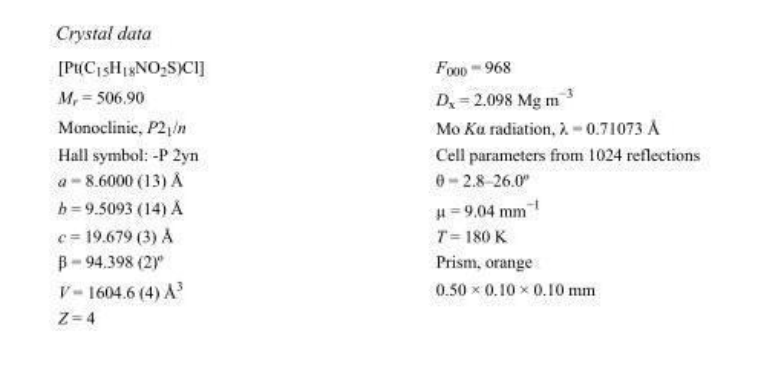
<table><tbody><tr><td>[Pt(C<sub>15</sub>H<sub>18</sub>NO<sub>2</sub>S)Cl]</td><td>F000 = 968</td></tr><tr><td>M<sub>r</sub> = 506.90</td><td>D<sub>x</sub> = 2.098 Mg m<sup>−3</sup></td></tr><tr><td>Monoclinic, P2<sub>1</sub>/n</td><td>Mo Kα radiation, λ = 0.71073 Å</td></tr><tr><td>Hall symbol: -P 2yn</td><td>Cell parameters from 1024 reflections</td></tr><tr><td>a = 8.6000 (13) Å</td><td>θ = 2.8–26.0º</td></tr><tr><td>b = 9.5093 (14) Å</td><td>µ = 9.04 mm<sup>−1</sup></td></tr><tr><td>c = 19.679 (3) Å</td><td>T = 180 K</td></tr><tr><td>β = 94.398 (2)º</td><td>Prism, orange</td></tr><tr><td>V = 1604.6 (4) Å<sup>3</sup></td><td>0.50 × 0.10 × 0.10 mm</td></tr><tr><td>Z = 4</td><td></td></tr></tbody></table>